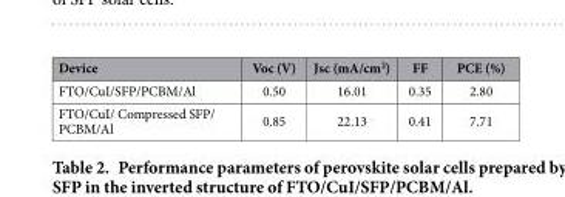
<table><thead><tr><td>Device</td><td>Voc (V)</td><td>Jsc (mA/cm<sup>2</sup>)</td><td>FF</td><td>PCE (%)</td></tr></thead><tbody><tr><td>FTO/CuI/SFP/PCBM/Al</td><td>0.50</td><td>16.01</td><td>0.35</td><td>2.80</td></tr><tr><td>FTO/CuI/ Compressed SFP/ PCBM/Al</td><td>0.85</td><td>22.13</td><td>0.41</td><td>7.71</td></tr></tbody></table>